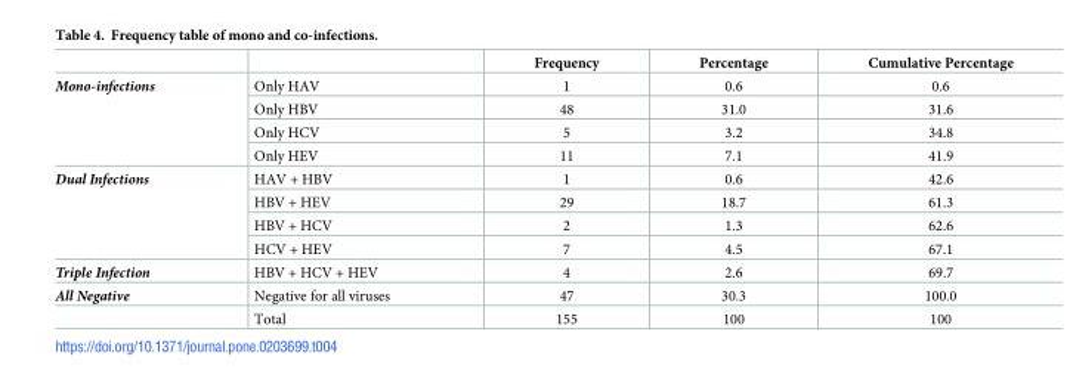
<table><thead><tr><td></td><td></td><td>Frequency</td><td>Percentage</td><td>Cumulative Percentage</td></tr></thead><tbody><tr><td rowspan="4">Mono-infections</td><td>Only HAV</td><td>1</td><td>0.6</td><td>0.6</td></tr><tr><td>Only HBV</td><td>48</td><td>31.0</td><td>31.6</td></tr><tr><td>Only HCV</td><td>5</td><td>3.2</td><td>34.8</td></tr><tr><td>Only HEV</td><td>11</td><td>7.1</td><td>41.9</td></tr><tr><td rowspan="4">Dual Infections</td><td>HAV + HBV</td><td>1</td><td>0.6</td><td>42.6</td></tr><tr><td>HBV + HEV</td><td>29</td><td>18.7</td><td>61.3</td></tr><tr><td>HBV + HCV</td><td>2</td><td>1.3</td><td>62.6</td></tr><tr><td>HCV + HEV</td><td>7</td><td>4.5</td><td>67.1</td></tr><tr><td>Triple Infection</td><td>HBV + HCV + HEV</td><td>4</td><td>2.6</td><td>69.7</td></tr><tr><td rowspan="2">All Negative</td><td>Negative for all viruses</td><td>47</td><td>30.3</td><td>100.0</td></tr><tr><td>Total</td><td>155</td><td>100</td><td>100</td></tr></tbody></table>